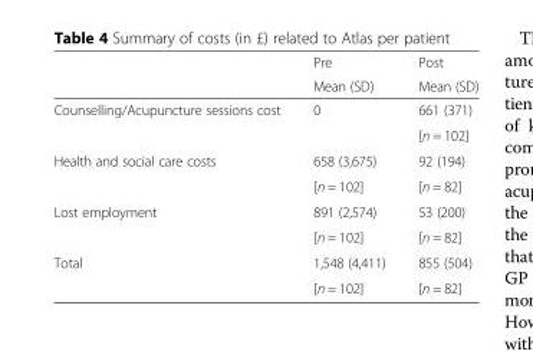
<table><thead><tr><td rowspan="2"></td><td rowspan="2">Pre Mean (SD)</td><td rowspan="2">Post Mean (SD)</td></tr><tr></tr></thead><tbody><tr><td rowspan="2">Counselling/Acupuncture sessions cost</td><td rowspan="2">0</td><td>661 (371)</td></tr><tr><td>[n = 102]</td></tr><tr><td rowspan="2">Health and social care costs</td><td>658 (3,675)</td><td>92 (194)</td></tr><tr><td>[n = 102]</td><td>[n = 82]</td></tr><tr><td rowspan="2">Lost employment</td><td>891 (2,574)</td><td>53 (200)</td></tr><tr><td>[n = 102]</td><td>[n = 82]</td></tr><tr><td rowspan="2">Total</td><td>1,548 (4,411)</td><td>855 (504)</td></tr><tr><td>[n = 102]</td><td>[n = 82]</td></tr></tbody></table>